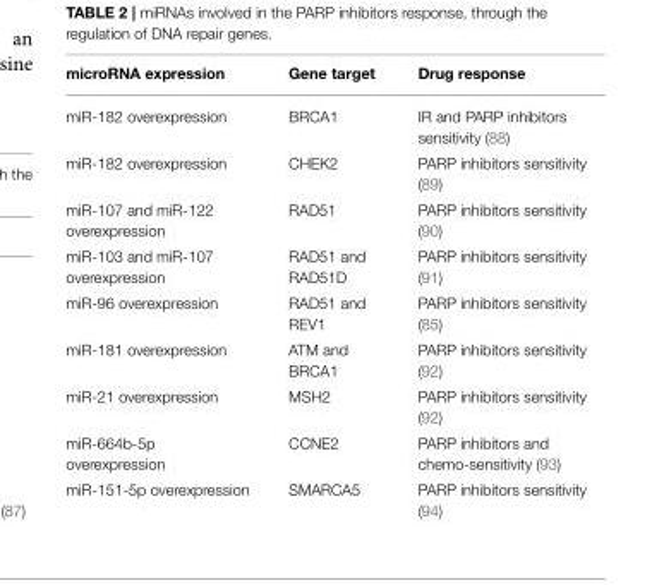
<table><thead><tr><td>microRNA expression</td><td>Gene target</td><td>Drug response</td></tr></thead><tbody><tr><td>miR-182 overexpression</td><td>BRCA1</td><td>IR and PARP inhibitors sensitivity (88)</td></tr><tr><td>miR-182 overexpression</td><td>CHEK2</td><td>PARP inhibitors sensitivity (89)</td></tr><tr><td>miR-107 and miR-122 overexpression</td><td>RAD51</td><td>PARP inhibitors sensitivity (90)</td></tr><tr><td>miR-103 and miR-107 overexpression</td><td>RAD51 and RAD51D</td><td>PARP inhibitors sensitivity (91)</td></tr><tr><td>miR-96 overexpression</td><td>RAD51 and REV1</td><td>PARP inhibitors sensitivity (85)</td></tr><tr><td>miR-181 overexpression</td><td>ATM and BRCA1</td><td>PARP inhibitors sensitivity (92)</td></tr><tr><td>miR-21 overexpression</td><td>MSH2</td><td>PARP inhibitors sensitivity (92)</td></tr><tr><td>miR-664b-5p overexpression</td><td>CCNE2</td><td>PARP inhibitors and chemo-sensitivity (93)</td></tr><tr><td>miR-151-5p overexpression</td><td>SMARCA5</td><td>PARP inhibitors sensitivity (94)</td></tr></tbody></table>